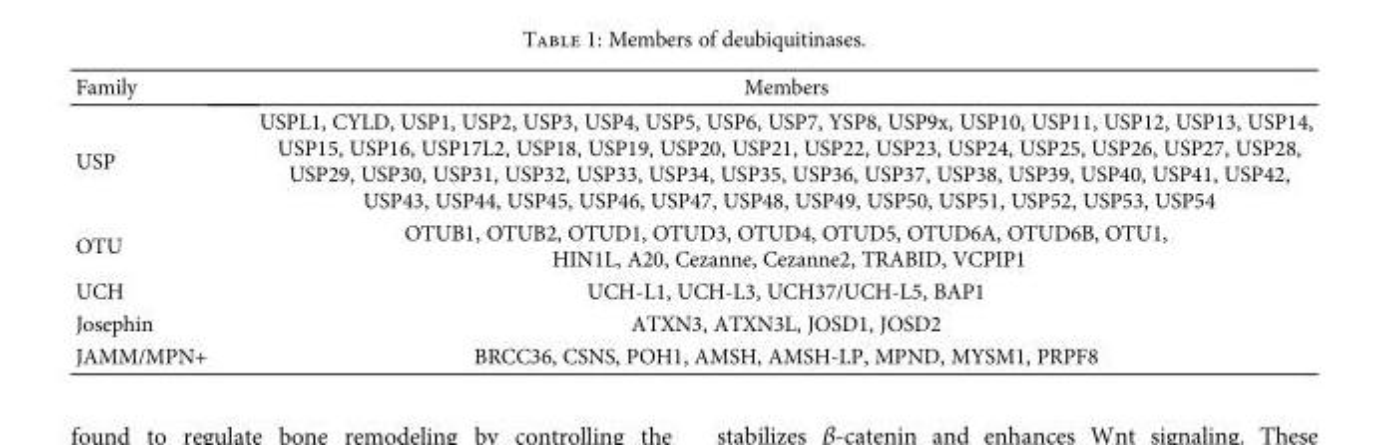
<table><thead><tr><td>Family</td><td>Members</td></tr></thead><tbody><tr><td>USP</td><td>USPL1, CYLD, USP1, USP2, USP3, USP4, USP5, USP6, USP7, YSP8, USP9x, USP10, USP11, USP12, USP13, USP14, USP15, USP16, USP17L2, USP18, USP19, USP20, USP21, USP22, USP23, USP24, USP25, USP26, USP27, USP28, USP29, USP30, USP31, USP32, USP33, USP34, USP35, USP36, USP37, USP38, USP39, USP40, USP41, USP42, USP43, USP44, USP45, USP46, USP47, USP48, USP49, USP50, USP51, USP52, USP53, USP54</td></tr><tr><td>OTU</td><td>OTUB1, OTUB2, OTUD1, OTUD3, OTUD4, OTUD5, OTUD6A, OTUD6B, OTU1, HIN1L, A20, Cezanne, Cezanne2, TRABID, VCPIP1</td></tr><tr><td>UCH</td><td>UCH-L1, UCH-L3, UCH37/UCH-L5, BAP1</td></tr><tr><td>Josephin</td><td>ATXN3, ATXN3L, JOSD1, JOSD2</td></tr><tr><td>JAMM/MPN+</td><td>BRCC36, CSNS, POH1, AMSH, AMSH-LP, MPND, MYSM1, PRPF8</td></tr></tbody></table>